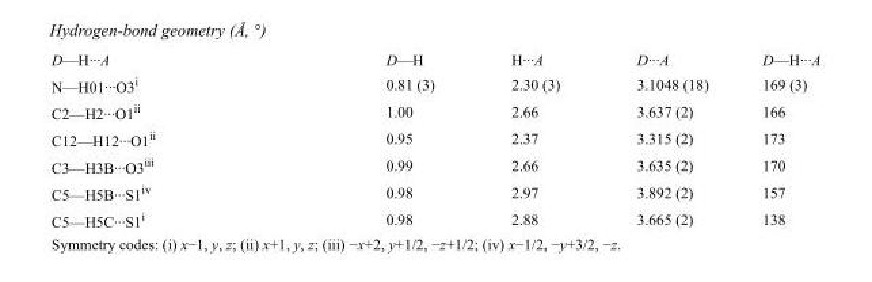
<table><tbody><tr><td>D—H···A</td><td>D—H</td><td>H···A</td><td>D···A</td><td>D—H···A</td></tr><tr><td>N—H01···O3<sup>i</sup></td><td>0.81 (3)</td><td>2.30 (3)</td><td>3.1048 (18)</td><td>169 (3)</td></tr><tr><td>C2—H2···O1<sup>ii</sup></td><td>1.00</td><td>2.66</td><td>3.637 (2)</td><td>166</td></tr><tr><td>C12—H12···O1<sup>ii</sup></td><td>0.95</td><td>2.37</td><td>3.315 (2)</td><td>173</td></tr><tr><td>C3—H3B···O3<sup>iii</sup></td><td>0.99</td><td>2.66</td><td>3.635 (2)</td><td>170</td></tr><tr><td>C5—H5B···S1<sup>iv</sup></td><td>0.98</td><td>2.97</td><td>3.892 (2)</td><td>157</td></tr><tr><td>C5—H5C···S1<sup>i</sup></td><td>0.98</td><td>2.88</td><td>3.665 (2)</td><td>138</td></tr></tbody></table>